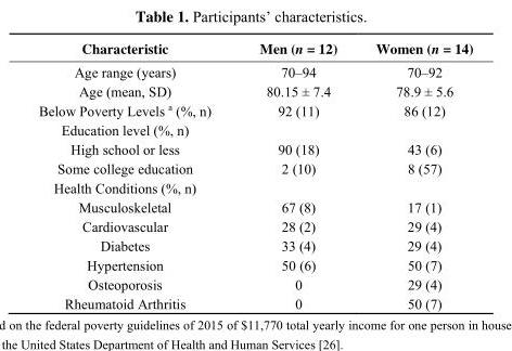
<table><thead><tr><td>Characteristic</td><td>Men (n = 12)</td><td>Women (n = 14)</td></tr></thead><tbody><tr><td>Age range (years)</td><td>70–94</td><td>70–92</td></tr><tr><td>Age (mean, SD)</td><td>80.15 ± 7.4</td><td>78.9 ± 5.6</td></tr><tr><td>Below Poverty Levels <sup>a</sup> (%, n)</td><td>92 (11)</td><td>86 (12)</td></tr><tr><td colspan="3">Education level (%, n)</td></tr><tr><td>High school or less</td><td>90 (18)</td><td>43 (6)</td></tr><tr><td>Some college education</td><td>2 (10)</td><td>8 (57)</td></tr><tr><td colspan="3">Health Conditions (%, n)</td></tr><tr><td>Musculoskeletal</td><td>67 (8)</td><td>17 (1)</td></tr><tr><td>Cardiovascular</td><td>28 (2)</td><td>29 (4)</td></tr><tr><td>Diabetes</td><td>33 (4)</td><td>29 (4)</td></tr><tr><td>Hypertension</td><td>50 (6)</td><td>50 (7)</td></tr><tr><td>Osteoporosis</td><td>0</td><td>29 (4)</td></tr><tr><td>Rheumatoid Arthritis</td><td>0</td><td>50 (7)</td></tr></tbody></table>